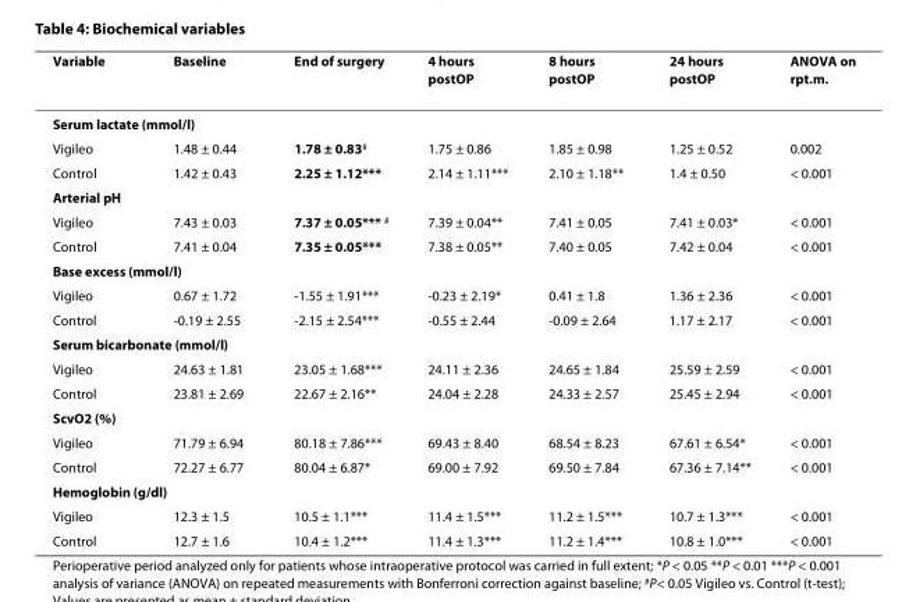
<table><thead><tr><td>Variable</td><td>Baseline</td><td>End of surgery</td><td>4 hours postOP</td><td>8 hours postOP</td><td>24 hours postOP</td><td>ANOVA on rpt.m.</td></tr></thead><tbody><tr><td colspan="7">Serum lactate (mmol/l)</td></tr><tr><td>Vigileo</td><td>1.48 ± 0.44</td><td>1.78 ± 0.83<sup>#</sup></td><td>1.75 ± 0.86</td><td>1.85 ± 0.98</td><td>1.25 ± 0.52</td><td>0.002</td></tr><tr><td>Control</td><td>1.42 ± 0.43</td><td>2.25 ± 1.12***</td><td>2.14 ± 1.11***</td><td>2.10 ± 1.18**</td><td>1.4 ± 0.50</td><td>&lt; 0.001</td></tr><tr><td colspan="7">Arterial pH</td></tr><tr><td>Vigileo</td><td>7.43 ± 0.03</td><td>7.37 ± 0.05*** <sup>#</sup></td><td>7.39 ± 0.04**</td><td>7.41 ± 0.05</td><td>7.41 ± 0.03*</td><td>&lt; 0.001</td></tr><tr><td>Control</td><td>7.41 ± 0.04</td><td>7.35 ± 0.05***</td><td>7.38 ± 0.05**</td><td>7.40 ± 0.05</td><td>7.42 ± 0.04</td><td>&lt; 0.001</td></tr><tr><td colspan="7">Base excess (mmol/l)</td></tr><tr><td>Vigileo</td><td>0.67 ± 1.72</td><td>-1.55 ± 1.91***</td><td>-0.23 ± 2.19*</td><td>0.41 ± 1.8</td><td>1.36 ± 2.36</td><td>&lt; 0.001</td></tr><tr><td>Control</td><td>-0.19 ± 2.55</td><td>-2.15 ± 2.54***</td><td>-0.55 ± 2.44</td><td>-0.09 ± 2.64</td><td>1.17 ± 2.17</td><td>&lt; 0.001</td></tr><tr><td colspan="7">Serum bicarbonate (mmol/l)</td></tr><tr><td>Vigileo</td><td>24.63 ± 1.81</td><td>23.05 ± 1.68***</td><td>24.11 ± 2.36</td><td>24.65 ± 1.84</td><td>25.59 ± 2.59</td><td>&lt; 0.001</td></tr><tr><td>Control</td><td>23.81 ± 2.69</td><td>22.67 ± 2.16**</td><td>24.04 ± 2.28</td><td>24.33 ± 2.57</td><td>25.45 ± 2.94</td><td>&lt; 0.001</td></tr><tr><td colspan="7">ScvO2 (%)</td></tr><tr><td>Vigileo</td><td>71.79 ± 6.94</td><td>80.18 ± 7.86***</td><td>69.43 ± 8.40</td><td>68.54 ± 8.23</td><td>67.61 ± 6.54*</td><td>&lt; 0.001</td></tr><tr><td>Control</td><td>72.27 ± 6.77</td><td>80.04 ± 6.87*</td><td>69.00 ± 7.92</td><td>69.50 ± 7.84</td><td>67.36 ± 7.14**</td><td>&lt; 0.001</td></tr><tr><td colspan="7">Hemoglobin (g/dl)</td></tr><tr><td>Vigileo</td><td>12.3 ± 1.5</td><td>10.5 ± 1.1***</td><td>11.4 ± 1.5***</td><td>11.2 ± 1.5***</td><td>10.7 ± 1.3***</td><td>&lt; 0.001</td></tr><tr><td>Control</td><td>12.7 ± 1.6</td><td>10.4 ± 1.2***</td><td>11.4 ± 1.3***</td><td>11.2 ± 1.4***</td><td>10.8 ± 1.0***</td><td>&lt; 0.001</td></tr></tbody></table>